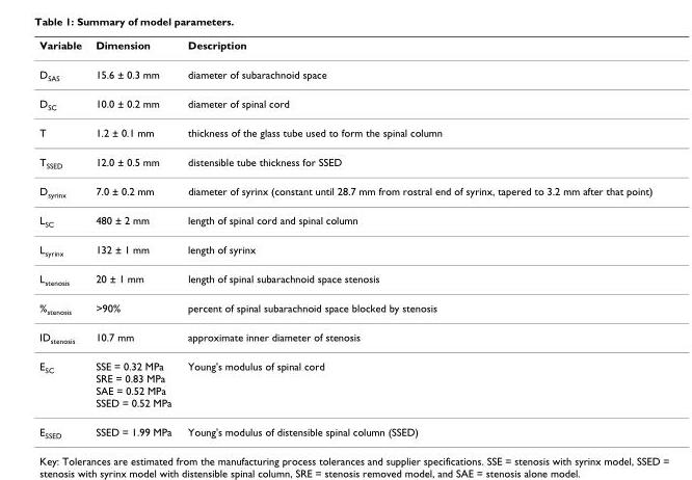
<table><thead><tr><td>Variable</td><td>Dimension</td><td>Description</td></tr></thead><tbody><tr><td>D<sub>SAS</sub></td><td>15.6 ± 0.3 mm</td><td>diameter of subarachnoid space</td></tr><tr><td>D<sub>SC</sub></td><td>10.0 ± 0.2 mm</td><td>diameter of spinal cord</td></tr><tr><td>T</td><td>1.2 ± 0.1 mm</td><td>thickness of the glass tube used to form the spinal column</td></tr><tr><td>T<sub>SSED</sub></td><td>12.0 ± 0.5 mm</td><td>distensible tube thickness for SSED</td></tr><tr><td>D<sub>syrinx</sub></td><td>7.0 ± 0.2 mm</td><td>diameter of syrinx (constant until 28.7 mm from rostral end of syrinx, tapered to 3.2 mm after that point)</td></tr><tr><td>L<sub>SC</sub></td><td>480 ± 2 mm</td><td>length of spinal cord and spinal column</td></tr><tr><td>L<sub>syrinx</sub></td><td>132 ± 1 mm</td><td>length of syrinx</td></tr><tr><td>L<sub>stenosis</sub></td><td>20 ± 1 mm</td><td>length of spinal subarachnoid space stenosis</td></tr><tr><td>%<sub>stenosis</sub></td><td>&gt;90%</td><td>percent of spinal subarachnoid space blocked by stenosis</td></tr><tr><td>ID<sub>stenosis</sub></td><td>10.7 mm</td><td>approximate inner diameter of stenosis</td></tr><tr><td>E<sub>SC</sub></td><td>SSE = 0.32 MPa SRE = 0.83 MPa SAE = 0.52 MPa SSED = 0.52 MPa</td><td>Young&#x27;s modulus of spinal cord</td></tr><tr><td>E<sub>SSED</sub></td><td>SSED = 1.99 MPa</td><td>Young&#x27;s modulus of distensible spinal column (SSED)</td></tr></tbody></table>